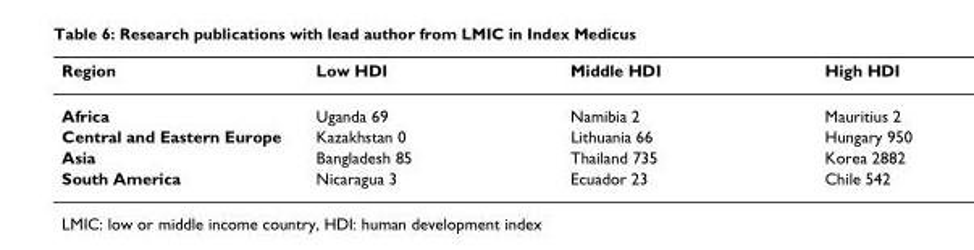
<table><thead><tr><td>Region</td><td>Low HDI</td><td>Middle HDI</td><td>High HDI</td></tr></thead><tbody><tr><td>Africa</td><td>Uganda 69</td><td>Namibia 2</td><td>Mauritius 2</td></tr><tr><td>Central and Eastern Europe</td><td>Kazakhstan 0</td><td>Lithuania 66</td><td>Hungary 950</td></tr><tr><td>Asia</td><td>Bangladesh 85</td><td>Thailand 735</td><td>Korea 2882</td></tr><tr><td>South America</td><td>Nicaragua 3</td><td>Ecuador 23</td><td>Chile 542</td></tr></tbody></table>